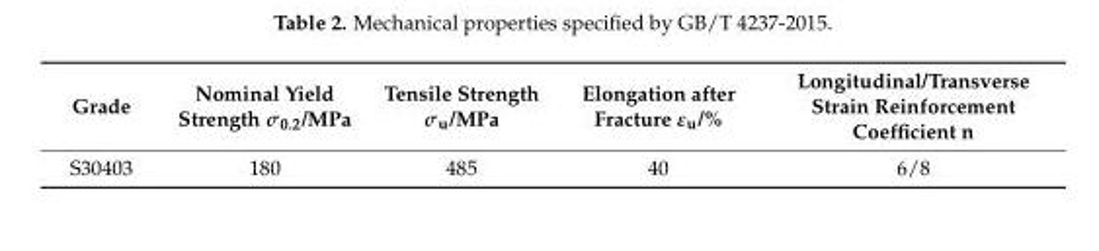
<table><thead><tr><td>Grade</td><td>Nominal Yield Strength σ<sub>0.2</sub>/MPa</td><td>Tensile Strength σ<sub>u</sub>/MPa</td><td>Elongation after Fracture ε<sub>u</sub>/%</td><td>Longitudinal/Transverse Strain Reinforcement Coefficient n</td></tr></thead><tbody><tr><td>S30403</td><td>180</td><td>485</td><td>40</td><td>6/8</td></tr></tbody></table>